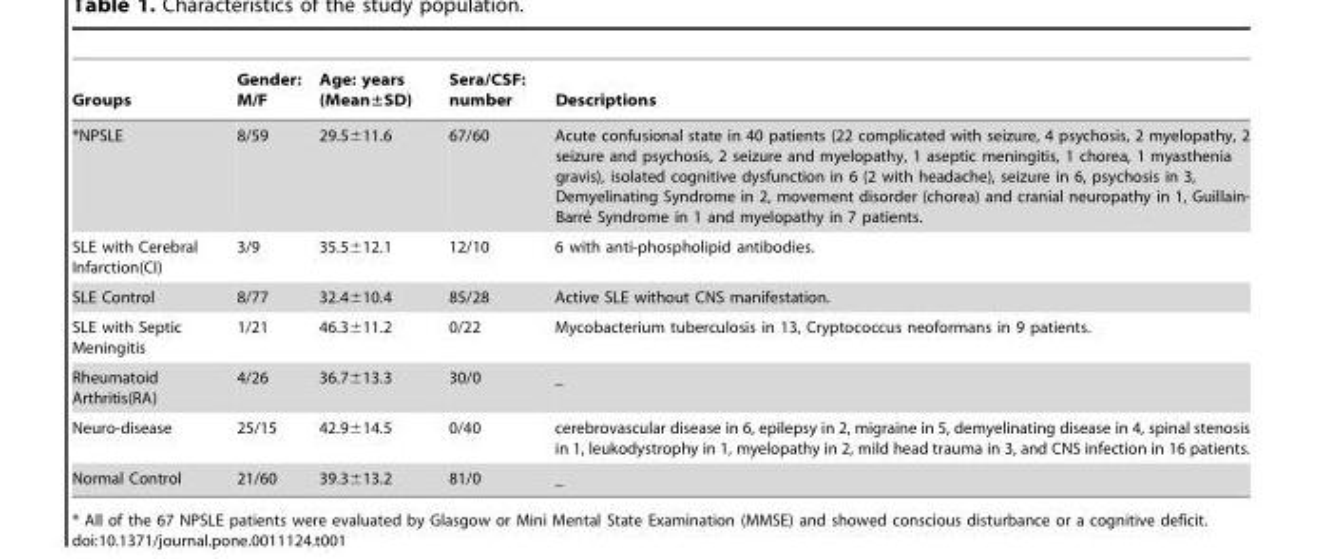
<table><thead><tr><td>Groups</td><td>Gender: M/F</td><td>Age: years (Mean±SD)</td><td>Sera/CSF: number</td><td>Descriptions</td></tr></thead><tbody><tr><td>*NPSLE</td><td>8/59</td><td>29.5±11.6</td><td>67/60</td><td>Acute confusional state in 40 patients (22 complicated with seizure, 4 psychosis, 2 myelopathy, 2 seizure and psychosis, 2 seizure and myelopathy, 1 aseptic meningitis, 1 chorea, 1 myasthenia gravis), isolated cognitive dysfunction in 6 (2 with headache), seizure in 6, psychosis in 3, Demyelinating Syndrome in 2, movement disorder (chorea) and cranial neuropathy in 1, Guillain- Barre´ Syndrome in 1 and myelopathy in 7 patients.</td></tr><tr><td>SLE with Cerebral Infarction(CI)</td><td>3/9</td><td>35.5±12.1</td><td>12/10</td><td>6 with anti-phospholipid antibodies.</td></tr><tr><td>SLE Control</td><td>8/77</td><td>32.4±10.4</td><td>85/28</td><td>Active SLE without CNS manifestation.</td></tr><tr><td>SLE with Septic Meningitis</td><td>1/21</td><td>46.3±11.2</td><td>0/22</td><td>Mycobacterium tuberculosis in 13, Cryptococcus neoformans in 9 patients.</td></tr><tr><td>Rheumatoid Arthritis(RA)</td><td>4/26</td><td>36.7±13.3</td><td>30/0</td><td>_</td></tr><tr><td>Neuro-disease</td><td>25/15</td><td>42.9±14.5</td><td>0/40</td><td>cerebrovascular disease in 6, epilepsy in 2, migraine in 5, demyelinating disease in 4, spinal stenosis in 1, leukodystrophy in 1, myelopathy in 2, mild head trauma in 3, and CNS infection in 16 patients.</td></tr><tr><td>Normal Control</td><td>21/60</td><td>39.3±13.2</td><td>81/0</td><td>_</td></tr></tbody></table>